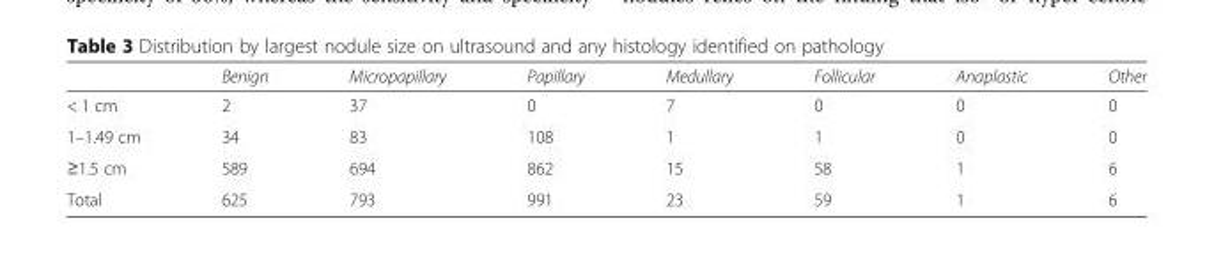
<table><thead><tr><td></td><td>Benign</td><td>Micropapillary</td><td>Papillary</td><td>Medullary</td><td>Follicular</td><td>Anaplastic</td><td>Other</td></tr></thead><tbody><tr><td>&lt; 1 cm</td><td>2</td><td>37</td><td>0</td><td>7</td><td>0</td><td>0</td><td>0</td></tr><tr><td>1–1.49 cm</td><td>34</td><td>83</td><td>108</td><td>1</td><td>1</td><td>0</td><td>0</td></tr><tr><td>≥1.5 cm</td><td>589</td><td>694</td><td>862</td><td>15</td><td>58</td><td>1</td><td>6</td></tr><tr><td>Total</td><td>625</td><td>793</td><td>991</td><td>23</td><td>59</td><td>1</td><td>6</td></tr></tbody></table>